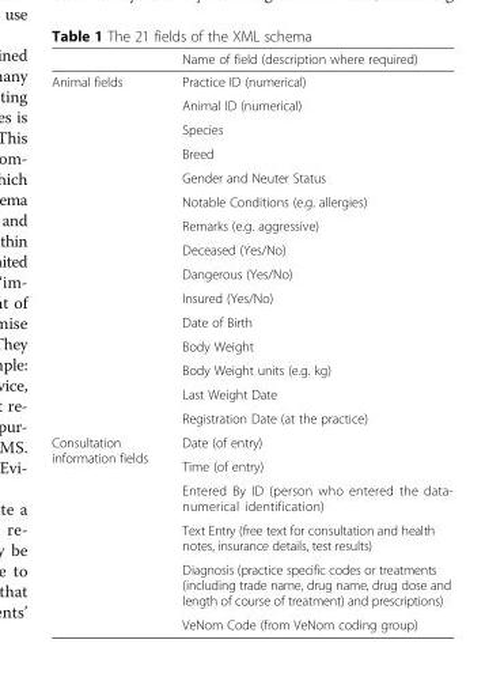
<table><thead><tr><td></td><td>Name of field (description where required)</td></tr></thead><tbody><tr><td rowspan="15">Animal fields</td><td>Practice ID (numerical)</td></tr><tr><td>Animal ID (numerical)</td></tr><tr><td>Species</td></tr><tr><td>Breed</td></tr><tr><td>Gender and Neuter Status</td></tr><tr><td>Notable Conditions (e.g. allergies)</td></tr><tr><td>Remarks (e.g. aggressive)</td></tr><tr><td>Deceased (Yes/No)</td></tr><tr><td>Dangerous (Yes/No)</td></tr><tr><td>Insured (Yes/No)</td></tr><tr><td>Date of Birth</td></tr><tr><td>Body Weight</td></tr><tr><td>Body Weight units (e.g. kg)</td></tr><tr><td>Last Weight Date</td></tr><tr><td>Registration Date (at the practice)</td></tr><tr><td rowspan="6">Consultation information fields</td><td>Date (of entry)</td></tr><tr><td>Time (of entry)</td></tr><tr><td>Entered By ID (person who entered the data- numerical identification)</td></tr><tr><td>Text Entry (free text for consultation and health notes, insurance details, test results)</td></tr><tr><td>Diagnosis (practice specific codes or treatments (including trade name, drug name, drug dose and length of course of treatment) and prescriptions)</td></tr><tr><td>VeNom Code (from VeNom coding group)</td></tr></tbody></table>